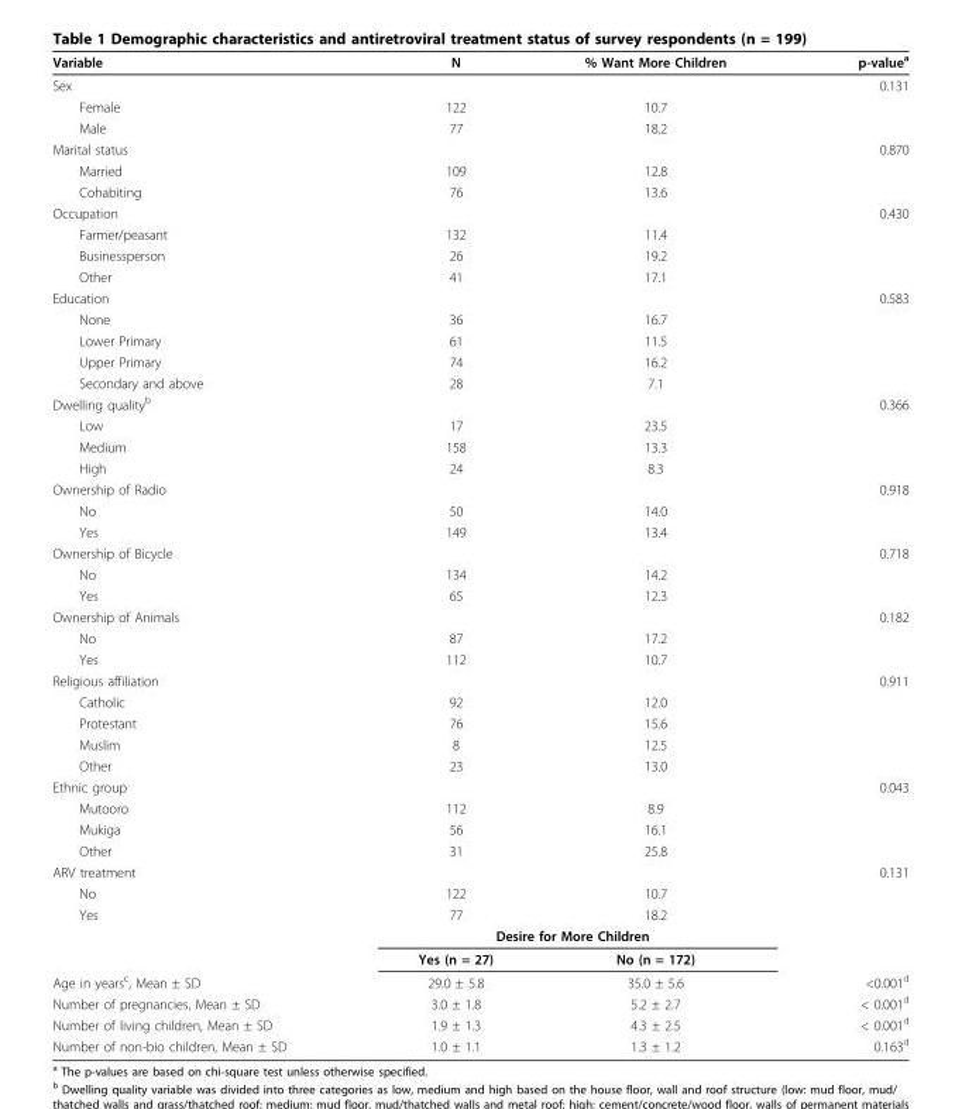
<table><thead><tr><td>Variable</td><td>N</td><td>% Want More Children</td><td>p-value<sup>a</sup></td></tr></thead><tbody><tr><td>Sex</td><td></td><td></td><td>0.131</td></tr><tr><td>Female</td><td>122</td><td>10.7</td><td></td></tr><tr><td>Male</td><td>77</td><td>18.2</td><td></td></tr><tr><td>Marital status</td><td></td><td></td><td>0.870</td></tr><tr><td>Married</td><td>109</td><td>12.8</td><td></td></tr><tr><td>Cohabiting</td><td>76</td><td>13.6</td><td></td></tr><tr><td>Occupation</td><td></td><td></td><td>0.430</td></tr><tr><td>Farmer/peasant</td><td>132</td><td>11.4</td><td></td></tr><tr><td>Businessperson</td><td>26</td><td>19.2</td><td></td></tr><tr><td>Other</td><td>41</td><td>17.1</td><td></td></tr><tr><td>Education</td><td></td><td></td><td>0.583</td></tr><tr><td>None</td><td>36</td><td>16.7</td><td></td></tr><tr><td>Lower Primary</td><td>61</td><td>11.5</td><td></td></tr><tr><td>Upper Primary</td><td>74</td><td>16.2</td><td></td></tr><tr><td>Secondary and above</td><td>28</td><td>7.1</td><td></td></tr><tr><td>Dwelling quality<sup>b</sup></td><td></td><td></td><td>0.366</td></tr><tr><td>Low</td><td>17</td><td>23.5</td><td></td></tr><tr><td>Medium</td><td>158</td><td>13.3</td><td></td></tr><tr><td>High</td><td>24</td><td>8.3</td><td></td></tr><tr><td>Ownership of Radio</td><td></td><td></td><td>0.918</td></tr><tr><td>No</td><td>50</td><td>14.0</td><td></td></tr><tr><td>Yes</td><td>149</td><td>13.4</td><td></td></tr><tr><td>Ownership of Bicycle</td><td></td><td></td><td>0.718</td></tr><tr><td>No</td><td>134</td><td>14.2</td><td></td></tr><tr><td>Yes</td><td>65</td><td>12.3</td><td></td></tr><tr><td>Ownership of Animals</td><td></td><td></td><td>0.182</td></tr><tr><td>No</td><td>87</td><td>17.2</td><td></td></tr><tr><td>Yes</td><td>112</td><td>10.7</td><td></td></tr><tr><td>Religious affiliation</td><td></td><td></td><td>0.911</td></tr><tr><td>Catholic</td><td>92</td><td>12.0</td><td></td></tr><tr><td>Protestant</td><td>76</td><td>15.6</td><td></td></tr><tr><td>Muslim</td><td>8</td><td>12.5</td><td></td></tr><tr><td>Other</td><td>23</td><td>13.0</td><td></td></tr><tr><td>Ethnic group</td><td></td><td></td><td>0.043</td></tr><tr><td>Mutooro</td><td>112</td><td>8.9</td><td></td></tr><tr><td>Mukiga</td><td>56</td><td>16.1</td><td></td></tr><tr><td>Other</td><td>31</td><td>25.8</td><td></td></tr><tr><td>ARV treatment</td><td></td><td></td><td>0.131</td></tr><tr><td>No</td><td>122</td><td>10.7</td><td></td></tr><tr><td rowspan="3">Yes</td><td>77</td><td>18.2</td><td></td></tr><tr><td colspan="2">Desire for More Children</td><td></td></tr><tr><td>Yes (n = 27)</td><td>No (n = 172)</td><td></td></tr><tr><td>Age in years<sup>c</sup>, Mean ± SD</td><td>29.0 ± 5.8</td><td>35.0 ± 5.6</td><td>&lt;0.001<sup>d</sup></td></tr><tr><td>Number of pregnancies, Mean ± SD</td><td>3.0 ± 1.8</td><td>5.2 ± 2.7</td><td>&lt; 0.001<sup>d</sup></td></tr><tr><td>Number of living children, Mean ± SD</td><td>1.9 ± 1.3</td><td>4.3 ± 2.5</td><td>&lt; 0.001<sup>d</sup></td></tr><tr><td>Number of non-bio children, Mean ± SD</td><td>1.0 ± 1.1</td><td>1.3 ± 1.2</td><td>0.163<sup>d</sup></td></tr></tbody></table>